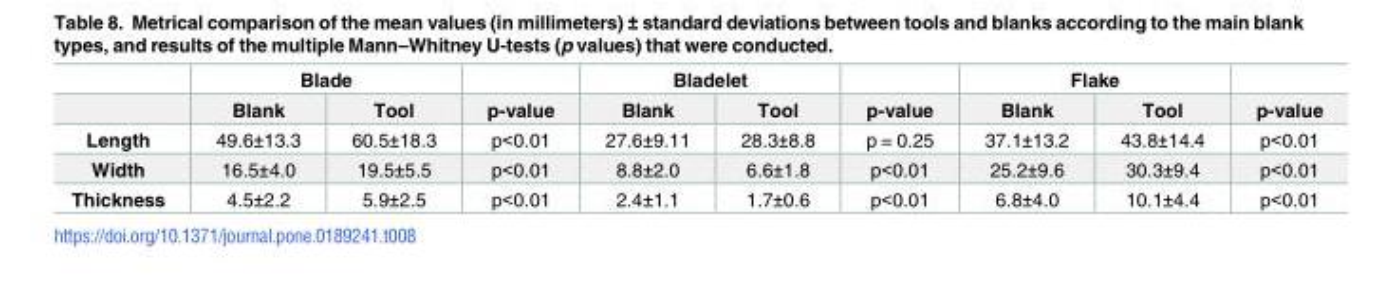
<table><thead><tr><td rowspan="2"></td><td colspan="2">Blade</td><td rowspan="2">p-value</td><td colspan="2">Bladelet</td><td rowspan="2">p-value</td><td colspan="2">Flake</td><td rowspan="2">p-value</td></tr><tr><td>Blank</td><td>Tool</td><td>Blank</td><td>Tool</td><td>Blank</td><td>Tool</td></tr></thead><tbody><tr><td>Length</td><td>49.6±13.3</td><td>60.5±18.3</td><td>p&lt;0.01</td><td>27.6±9.11</td><td>28.3±8.8</td><td>p = 0.25</td><td>37.1±13.2</td><td>43.8±14.4</td><td>p&lt;0.01</td></tr><tr><td>Width</td><td>16.5±4.0</td><td>19.5±5.5</td><td>p&lt;0.01</td><td>8.8±2.0</td><td>6.6±1.8</td><td>p&lt;0.01</td><td>25.2±9.6</td><td>30.3±9.4</td><td>p&lt;0.01</td></tr><tr><td>Thickness</td><td>4.5±2.2</td><td>5.9±2.5</td><td>p&lt;0.01</td><td>2.4±1.1</td><td>1.7±0.6</td><td>p&lt;0.01</td><td>6.8±4.0</td><td>10.1±4.4</td><td>p&lt;0.01</td></tr></tbody></table>